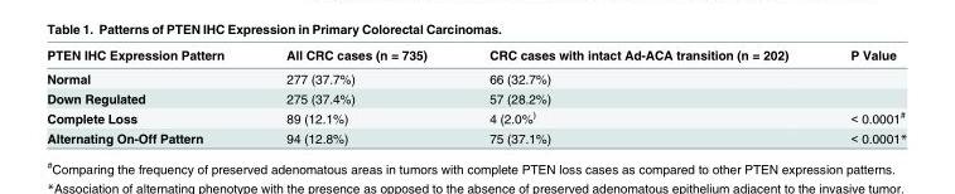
<table><thead><tr><td>PTEN IHC Expression Pattern</td><td>All CRC cases (n = 735)</td><td>CRC cases with intact Ad-ACA transition (n = 202)</td><td>P Value</td></tr></thead><tbody><tr><td>Normal</td><td>277 (37.7%)</td><td>66 (32.7%)</td><td></td></tr><tr><td>Down Regulated</td><td>275 (37.4%)</td><td>57 (28.2%)</td><td></td></tr><tr><td>Complete Loss</td><td>89 (12.1%)</td><td>4 (2.0%<sup>)</sup></td><td>&lt; 0.0001<sup>#</sup></td></tr><tr><td>Alternating On-Off Pattern</td><td>94 (12.8%)</td><td>75 (37.1%)</td><td>&lt; 0.0001*</td></tr></tbody></table>